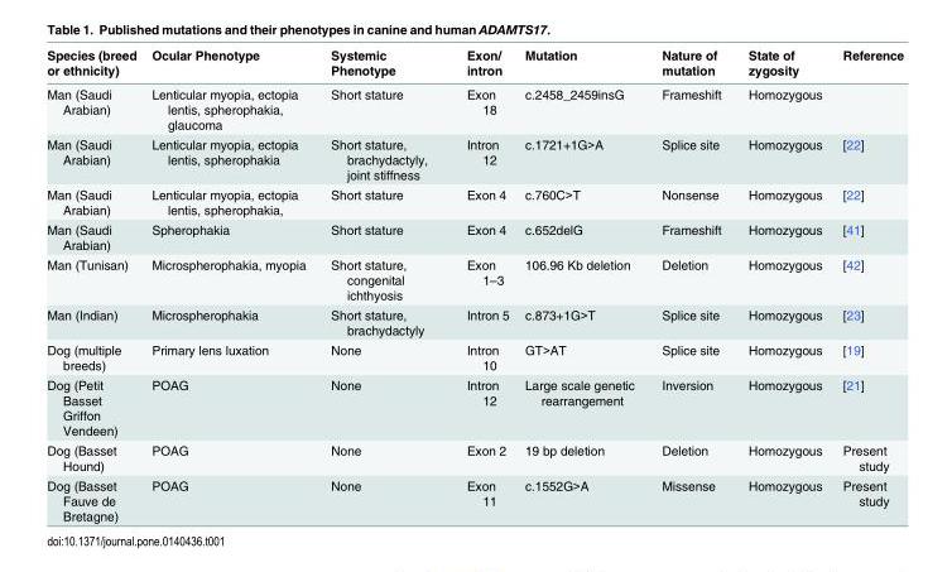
<table><thead><tr><td>Species (breed or ethnicity)</td><td>Ocular Phenotype</td><td>Systemic Phenotype</td><td>Exon/ intron</td><td>Mutation</td><td>Nature of mutation</td><td>State of zygosity</td><td>Reference</td></tr></thead><tbody><tr><td>Man (Saudi Arabian)</td><td>Lenticular myopia, ectopia lentis, spherophakia, glaucoma</td><td>Short stature</td><td>Exon 18</td><td>c.2458_2459insG</td><td>Frameshift</td><td>Homozygous</td><td></td></tr><tr><td>Man (Saudi Arabian)</td><td>Lenticular myopia, ectopia lentis, spherophakia</td><td>Short stature, brachydactyly, joint stiffness</td><td>Intron 12</td><td>c.1721+1G&gt;A</td><td>Splice site</td><td>Homozygous</td><td>[22]</td></tr><tr><td>Man (Saudi Arabian)</td><td>Lenticular myopia, ectopia lentis, spherophakia,</td><td>Short stature</td><td>Exon 4</td><td>c.760C&gt;T</td><td>Nonsense</td><td>Homozygous</td><td>[22]</td></tr><tr><td>Man (Saudi Arabian)</td><td>Spherophakia</td><td>Short stature</td><td>Exon 4</td><td>c.652delG</td><td>Frameshift</td><td>Homozygous</td><td>[41]</td></tr><tr><td>Man (Tunisan)</td><td>Microspherophakia, myopia</td><td>Short stature, congenital ichthyosis</td><td>Exon 1–3</td><td>106.96 Kb deletion</td><td>Deletion</td><td>Homozygous</td><td>[42]</td></tr><tr><td>Man (Indian)</td><td>Microspherophakia</td><td>Short stature, brachydactyly</td><td>Intron 5</td><td>c.873+1G&gt;T</td><td>Splice site</td><td>Homozygous</td><td>[23]</td></tr><tr><td>Dog (multiple breeds)</td><td>Primary lens luxation</td><td>None</td><td>Intron 10</td><td>GT&gt;AT</td><td>Splice site</td><td>Homozygous</td><td>[19]</td></tr><tr><td>Dog (Petit Basset Griffon Vendeen)</td><td>POAG</td><td>None</td><td>Intron 12</td><td>Large scale genetic rearrangement</td><td>Inversion</td><td>Homozygous</td><td>[21]</td></tr><tr><td>Dog (Basset Hound)</td><td>POAG</td><td>None</td><td>Exon 2</td><td>19 bp deletion</td><td>Deletion</td><td>Homozygous</td><td>Present study</td></tr><tr><td>Dog (Basset Fauve de Bretagne)</td><td>POAG</td><td>None</td><td>Exon 11</td><td>c.1552G&gt;A</td><td>Missense</td><td>Homozygous</td><td>Present study</td></tr></tbody></table>